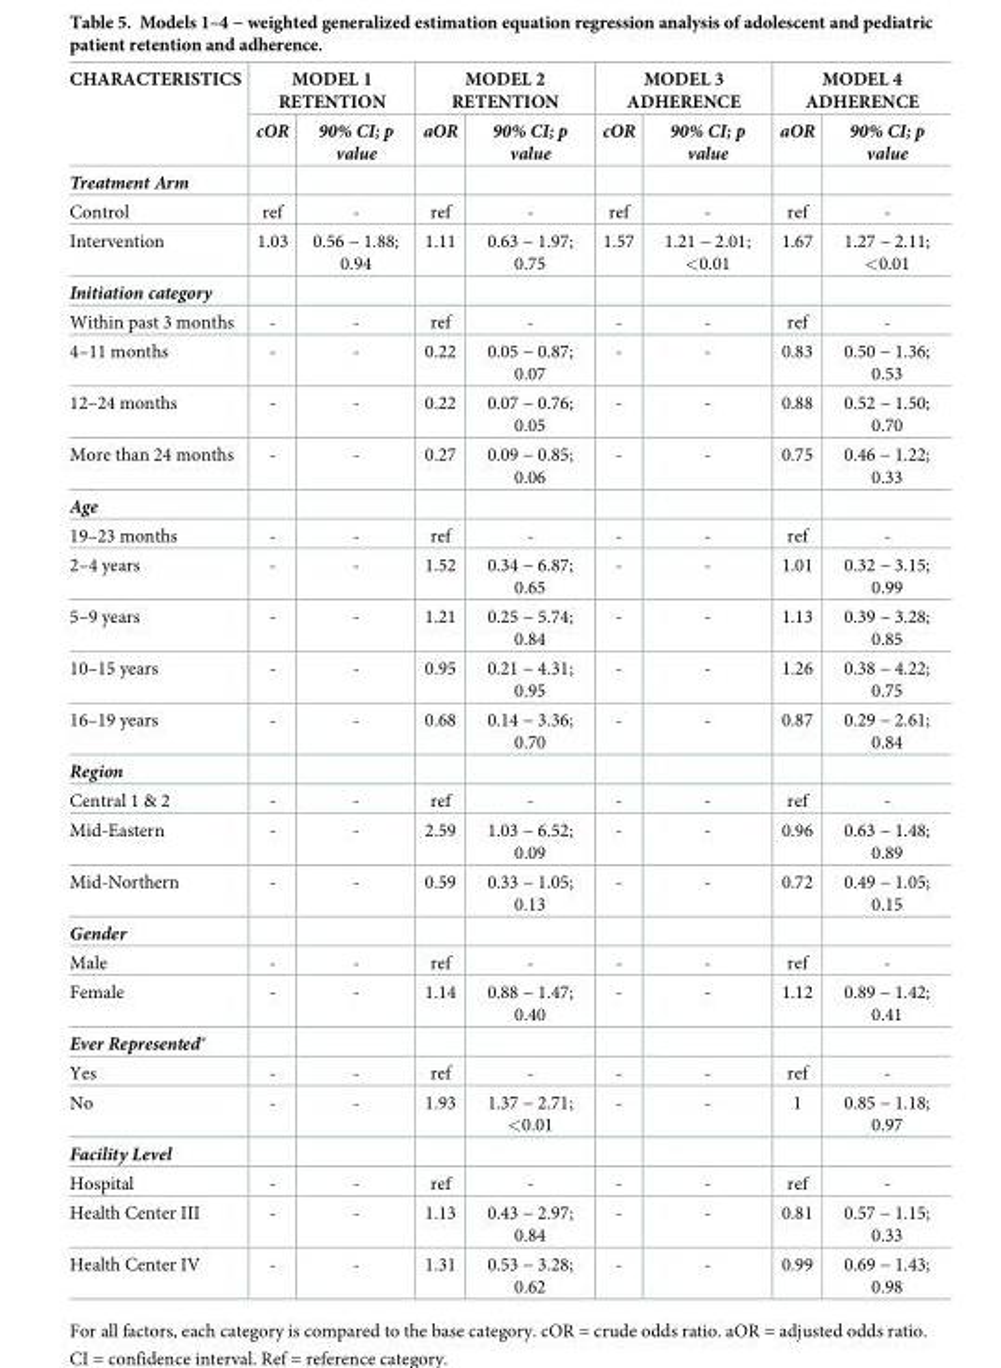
<table><thead><tr><td rowspan="2">CHARACTERISTICS</td><td colspan="2">MODEL 1 RETENTION</td><td colspan="2">MODEL 2 RETENTION</td><td colspan="2">MODEL 3 ADHERENCE</td><td colspan="2">MODEL 4 ADHERENCE</td></tr><tr><td>cOR</td><td>90% CI; p value</td><td>aOR</td><td>90% CI; p value</td><td>cOR</td><td>90% CI; p value</td><td>aOR</td><td>90% CI; p value</td></tr></thead><tbody><tr><td colspan="9">Treatment Arm</td></tr><tr><td>Control</td><td>ref</td><td>-</td><td>ref</td><td>-</td><td>ref</td><td>-</td><td>ref</td><td>-</td></tr><tr><td>Intervention</td><td>1.03</td><td>0.56 − 1.88; 0.94</td><td>1.11</td><td>0.63 − 1.97; 0.75</td><td>1.57</td><td>1.21 − 2.01; &lt;0.01</td><td>1.67</td><td>1.27 − 2.11; &lt;0.01</td></tr><tr><td colspan="9">Initiation category</td></tr><tr><td>Within past 3 months</td><td>-</td><td>-</td><td>ref</td><td>-</td><td>-</td><td>-</td><td>ref</td><td>-</td></tr><tr><td>4–11 months</td><td>-</td><td>-</td><td>0.22</td><td>0.05 − 0.87; 0.07</td><td>-</td><td>-</td><td>0.83</td><td>0.50 − 1.36; 0.53</td></tr><tr><td>12–24 months</td><td>-</td><td>-</td><td>0.22</td><td>0.07 − 0.76; 0.05</td><td>-</td><td>-</td><td>0.88</td><td>0.52 − 1.50; 0.70</td></tr><tr><td>More than 24 months</td><td>-</td><td>-</td><td>0.27</td><td>0.09 − 0.85; 0.06</td><td>-</td><td>-</td><td>0.75</td><td>0.46 − 1.22; 0.33</td></tr><tr><td colspan="9">Age</td></tr><tr><td>19–23 months</td><td>-</td><td>-</td><td>ref</td><td>-</td><td>-</td><td>-</td><td>ref</td><td>-</td></tr><tr><td>2–4 years</td><td>-</td><td>-</td><td>1.52</td><td>0.34 − 6.87; 0.65</td><td>-</td><td>-</td><td>1.01</td><td>0.32 − 3.15; 0.99</td></tr><tr><td>5–9 years</td><td>-</td><td>-</td><td>1.21</td><td>0.25 − 5.74; 0.84</td><td>-</td><td>-</td><td>1.13</td><td>0.39 − 3.28; 0.85</td></tr><tr><td>10–15 years</td><td>-</td><td>-</td><td>0.95</td><td>0.21 − 4.31; 0.95</td><td>-</td><td>-</td><td>1.26</td><td>0.38 − 4.22; 0.75</td></tr><tr><td>16–19 years</td><td>-</td><td>-</td><td>0.68</td><td>0.14 − 3.36; 0.70</td><td>-</td><td>-</td><td>0.87</td><td>0.29 − 2.61; 0.84</td></tr><tr><td colspan="9">Region</td></tr><tr><td>Central 1 &amp; 2</td><td>-</td><td>-</td><td>ref</td><td>-</td><td>-</td><td>-</td><td>ref</td><td>-</td></tr><tr><td>Mid-Eastern</td><td>-</td><td>-</td><td>2.59</td><td>1.03 − 6.52; 0.09</td><td>-</td><td>-</td><td>0.96</td><td>0.63 − 1.48; 0.89</td></tr><tr><td>Mid-Northern</td><td>-</td><td>-</td><td>0.59</td><td>0.33 − 1.05; 0.13</td><td>-</td><td>-</td><td>0.72</td><td>0.49 − 1.05; 0.15</td></tr><tr><td colspan="9">Gender</td></tr><tr><td>Male</td><td>-</td><td>-</td><td>ref</td><td>-</td><td>-</td><td>-</td><td>ref</td><td>-</td></tr><tr><td>Female</td><td>-</td><td>-</td><td>1.14</td><td>0.88 − 1.47; 0.40</td><td>-</td><td>-</td><td>1.12</td><td>0.89 − 1.42; 0.41</td></tr><tr><td colspan="9">Ever Represented*</td></tr><tr><td>Yes</td><td>-</td><td>-</td><td>ref</td><td>-</td><td>-</td><td>-</td><td>ref</td><td>-</td></tr><tr><td>No</td><td>-</td><td>-</td><td>1.93</td><td>1.37 − 2.71; &lt;0.01</td><td>-</td><td>-</td><td>1</td><td>0.85 − 1.18; 0.97</td></tr><tr><td colspan="9">Facility Level</td></tr><tr><td>Hospital</td><td>-</td><td>-</td><td>ref</td><td>-</td><td>-</td><td>-</td><td>ref</td><td>-</td></tr><tr><td>Health Center III</td><td>-</td><td>-</td><td>1.13</td><td>0.43 − 2.97; 0.84</td><td>-</td><td>-</td><td>0.81</td><td>0.57 − 1.15; 0.33</td></tr><tr><td>Health Center IV</td><td>-</td><td>-</td><td>1.31</td><td>0.53 − 3.28; 0.62</td><td>-</td><td>-</td><td>0.99</td><td>0.69 − 1.43; 0.98</td></tr></tbody></table>